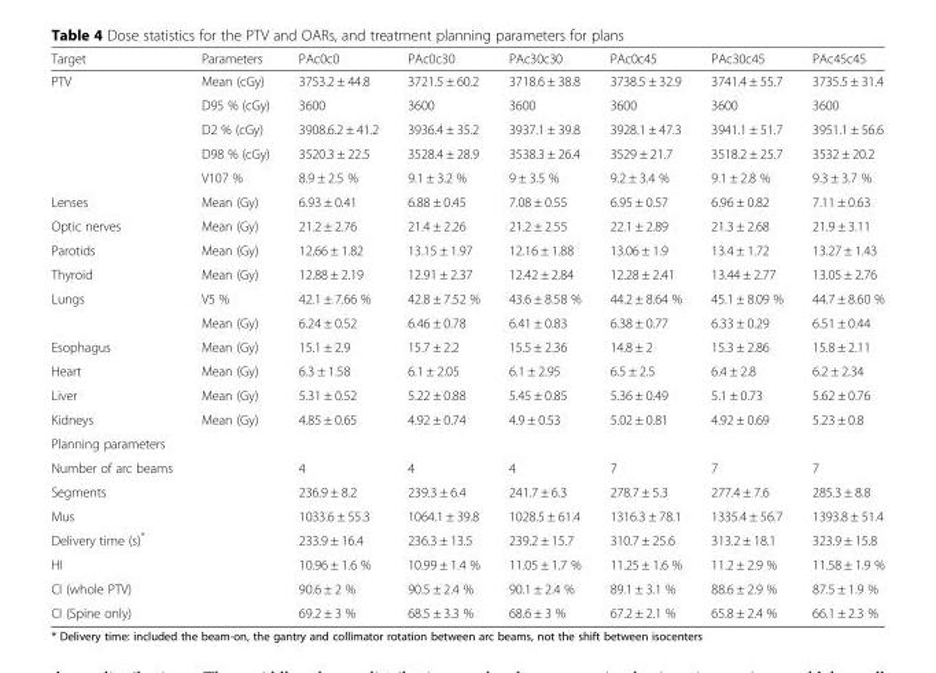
<table><thead><tr><td>Target</td><td>Parameters</td><td>PAc0c0</td><td>PAc0c30</td><td>PAc30c30</td><td>PAc0c45</td><td>PAc30c45</td><td>PAc45c45</td></tr></thead><tbody><tr><td rowspan="5">PTV</td><td>Mean (cGy)</td><td>3753.2 ± 44.8</td><td>3721.5 ± 60.2</td><td>3718.6 ± 38.8</td><td>3738.5 ± 32.9</td><td>3741.4 ± 55.7</td><td>3735.5 ± 31.4</td></tr><tr><td>D95 % (cGy)</td><td>3600</td><td>3600</td><td>3600</td><td>3600</td><td>3600</td><td>3600</td></tr><tr><td>D2 % (cGy)</td><td>3908.6.2 ± 41.2</td><td>3936.4 ± 35.2</td><td>3937.1 ± 39.8</td><td>3928.1 ± 47.3</td><td>3941.1 ± 51.7</td><td>3951.1 ± 56.6</td></tr><tr><td>D98 % (cGy)</td><td>3520.3 ± 22.5</td><td>3528.4 ± 28.9</td><td>3538.3 ± 26.4</td><td>3529 ± 21.7</td><td>3518.2 ± 25.7</td><td>3532 ± 20.2</td></tr><tr><td>V107 %</td><td>8.9 ± 2.5 %</td><td>9.1 ± 3.2 %</td><td>9 ± 3.5 %</td><td>9.2 ± 3.4 %</td><td>9.1 ± 2.8 %</td><td>9.3 ± 3.7 %</td></tr><tr><td>Lenses</td><td>Mean (Gy)</td><td>6.93 ± 0.41</td><td>6.88 ± 0.45</td><td>7.08 ± 0.55</td><td>6.95 ± 0.57</td><td>6.96 ± 0.82</td><td>7.11 ± 0.63</td></tr><tr><td>Optic nerves</td><td>Mean (Gy)</td><td>21.2 ± 2.76</td><td>21.4 ± 2.26</td><td>21.2 ± 2.55</td><td>22.1 ± 2.89</td><td>21.3 ± 2.68</td><td>21.9 ± 3.11</td></tr><tr><td>Parotids</td><td>Mean (Gy)</td><td>12.66 ± 1.82</td><td>13.15 ± 1.97</td><td>12.16 ± 1.88</td><td>13.06 ± 1.9</td><td>13.4 ± 1.72</td><td>13.27 ± 1.43</td></tr><tr><td>Thyroid</td><td>Mean (Gy)</td><td>12.88 ± 2.19</td><td>12.91 ± 2.37</td><td>12.42 ± 2.84</td><td>12.28 ± 2.41</td><td>13.44 ± 2.77</td><td>13.05 ± 2.76</td></tr><tr><td rowspan="2">Lungs</td><td>V5 %</td><td>42.1 ± 7.66 %</td><td>42.8 ± 7.52 %</td><td>43.6 ± 8.58 %</td><td>44.2 ± 8.64 %</td><td>45.1 ± 8.09 %</td><td>44.7 ± 8.60 %</td></tr><tr><td>Mean (Gy)</td><td>6.24 ± 0.52</td><td>6.46 ± 0.78</td><td>6.41 ± 0.83</td><td>6.38 ± 0.77</td><td>6.33 ± 0.29</td><td>6.51 ± 0.44</td></tr><tr><td>Esophagus</td><td>Mean (Gy)</td><td>15.1 ± 2.9</td><td>15.7 ± 2.2</td><td>15.5 ± 2.36</td><td>14.8 ± 2</td><td>15.3 ± 2.86</td><td>15.8 ± 2.11</td></tr><tr><td>Heart</td><td>Mean (Gy)</td><td>6.3 ± 1.58</td><td>6.1 ± 2.05</td><td>6.1 ± 2.95</td><td>6.5 ± 2.5</td><td>6.4 ± 2.8</td><td>6.2 ± 2.34</td></tr><tr><td>Liver</td><td>Mean (Gy)</td><td>5.31 ± 0.52</td><td>5.22 ± 0.88</td><td>5.45 ± 0.85</td><td>5.36 ± 0.49</td><td>5.1 ± 0.73</td><td>5.62 ± 0.76</td></tr><tr><td>Kidneys</td><td>Mean (Gy)</td><td>4.85 ± 0.65</td><td>4.92 ± 0.74</td><td>4.9 ± 0.53</td><td>5.02 ± 0.81</td><td>4.92 ± 0.69</td><td>5.23 ± 0.8</td></tr><tr><td colspan="8">Planning parameters</td></tr><tr><td>Number of arc beams</td><td></td><td>4</td><td>4</td><td>4</td><td>7</td><td>7</td><td>7</td></tr><tr><td>Segments</td><td></td><td>236.9 ± 8.2</td><td>239.3 ± 6.4</td><td>241.7 ± 6.3</td><td>278.7 ± 5.3</td><td>277.4 ± 7.6</td><td>285.3 ± 8.8</td></tr><tr><td>Mus</td><td></td><td>1033.6 ± 55.3</td><td>1064.1 ± 39.8</td><td>1028.5 ± 61.4</td><td>1316.3 ± 78.1</td><td>1335.4 ± 56.7</td><td>1393.8 ± 51.4</td></tr><tr><td>Delivery time (s)*</td><td></td><td>233.9 ± 16.4</td><td>236.3 ± 13.5</td><td>239.2 ± 15.7</td><td>310.7 ± 25.6</td><td>313.2 ± 18.1</td><td>323.9 ± 15.8</td></tr><tr><td>HI</td><td></td><td>10.96 ± 1.6 %</td><td>10.99 ± 1.4 %</td><td>11.05 ± 1.7 %</td><td>11.25 ± 1.6 %</td><td>11.2 ± 2.9 %</td><td>11.58 ± 1.9 %</td></tr><tr><td>CI (whole PTV)</td><td></td><td>90.6 ± 2 %</td><td>90.5 ± 2.4 %</td><td>90.1 ± 2.4 %</td><td>89.1 ± 3.1 %</td><td>88.6 ± 2.9 %</td><td>87.5 ± 1.9 %</td></tr><tr><td>CI (Spine only)</td><td></td><td>69.2 ± 3 %</td><td>68.5 ± 3.3 %</td><td>68.6 ± 3 %</td><td>67.2 ± 2.1 %</td><td>65.8 ± 2.4 %</td><td>66.1 ± 2.3 %</td></tr></tbody></table>